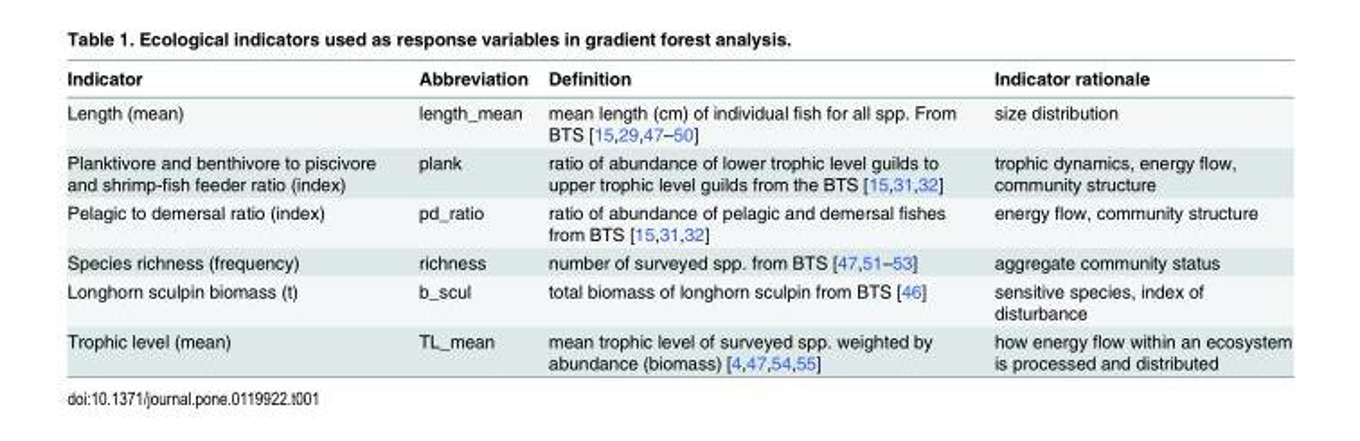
<table><thead><tr><td>Indicator</td><td>Abbreviation</td><td>Definition</td><td>Indicator rationale</td></tr></thead><tbody><tr><td>Length (mean)</td><td>length_mean</td><td>mean length (cm) of individual fish for all spp. From BTS [15,29,47–50]</td><td>size distribution</td></tr><tr><td>Planktivore and benthivore to piscivore and shrimp-fish feeder ratio (index)</td><td>plank</td><td>ratio of abundance of lower trophic level guilds to upper trophic level guilds from the BTS [15,31,32]</td><td>trophic dynamics, energy flow, community structure</td></tr><tr><td>Pelagic to demersal ratio (index)</td><td>pd_ratio</td><td>ratio of abundance of pelagic and demersal fishes from BTS [15,31,32]</td><td>energy flow, community structure</td></tr><tr><td>Species richness (frequency)</td><td>richness</td><td>number of surveyed spp. from BTS [47,51–53]</td><td>aggregate community status</td></tr><tr><td>Longhorn sculpin biomass (t)</td><td>b_scul</td><td>total biomass of longhorn sculpin from BTS [46]</td><td>sensitive species, index of disturbance</td></tr><tr><td>Trophic level (mean)</td><td>TL_mean</td><td>mean trophic level of surveyed spp. weighted by abundance (biomass) [4,47,54,55]</td><td>how energy flow within an ecosystem is processed and distributed</td></tr></tbody></table>